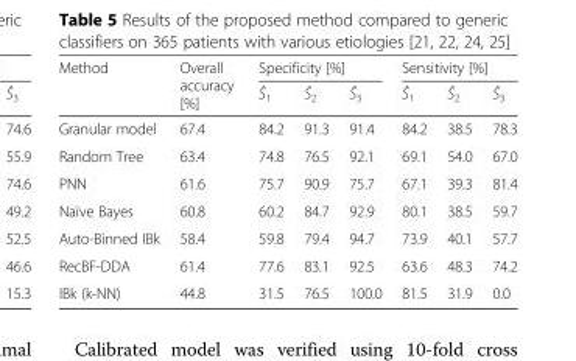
<table><thead><tr><td rowspan="2">Method</td><td rowspan="2">Overall accuracy [%]</td><td colspan="3">Specificity [%]</td><td colspan="3">Sensitivity [%]</td></tr><tr><td>Ŝ<sub>1</sub></td><td>Ŝ<sub>2</sub></td><td>Ŝ<sub>3</sub></td><td>Ŝ<sub>1</sub></td><td>Ŝ<sub>2</sub></td><td>Ŝ<sub>3</sub></td></tr></thead><tbody><tr><td>Granular model</td><td>67.4</td><td>84.2</td><td>91.3</td><td>91.4</td><td>84.2</td><td>38.5</td><td>78.3</td></tr><tr><td>Random Tree</td><td>63.4</td><td>74.8</td><td>76.5</td><td>92.1</td><td>69.1</td><td>54.0</td><td>67.0</td></tr><tr><td>PNN</td><td>61.6</td><td>75.7</td><td>90.9</td><td>75.7</td><td>67.1</td><td>39.3</td><td>81.4</td></tr><tr><td>Naïve Bayes</td><td>60.8</td><td>60.2</td><td>84.7</td><td>92.9</td><td>80.1</td><td>38.5</td><td>59.7</td></tr><tr><td>Auto-Binned IBk</td><td>58.4</td><td>59.8</td><td>79.4</td><td>94.7</td><td>73.9</td><td>40.1</td><td>57.7</td></tr><tr><td>RecBF-DDA</td><td>61.4</td><td>77.6</td><td>83.1</td><td>92.5</td><td>63.6</td><td>48.3</td><td>74.2</td></tr><tr><td>IBk (k-NN)</td><td>44.8</td><td>31.5</td><td>76.5</td><td>100.0</td><td>81.5</td><td>31.9</td><td>0.0</td></tr></tbody></table>